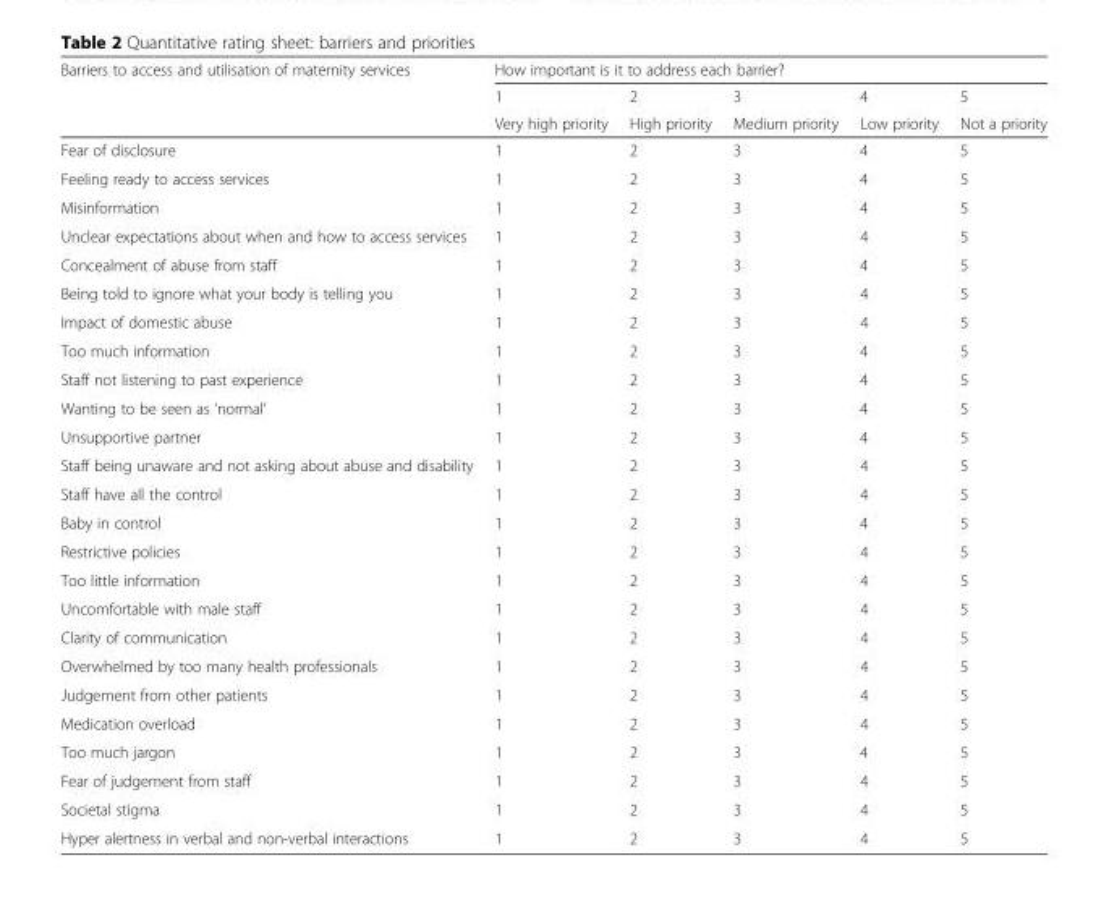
<table><thead><tr><td rowspan="3">Barriers to access and utilisation of maternity services</td><td colspan="5">How important is it to address each barrier?</td></tr><tr><td rowspan="2">1 Very high priority</td><td rowspan="2">2 High priority</td><td rowspan="2">3 Medium priority</td><td rowspan="2">4 Low priority</td><td rowspan="2">5 Not a priority</td></tr><tr></tr></thead><tbody><tr><td>Fear of disclosure</td><td>1</td><td>2</td><td>3</td><td>4</td><td>5</td></tr><tr><td>Feeling ready to access services</td><td>1</td><td>2</td><td>3</td><td>4</td><td>5</td></tr><tr><td>Misinformation</td><td>1</td><td>2</td><td>3</td><td>4</td><td>5</td></tr><tr><td>Unclear expectations about when and how to access services</td><td>1</td><td>2</td><td>3</td><td>4</td><td>5</td></tr><tr><td>Concealment of abuse from staff</td><td>1</td><td>2</td><td>3</td><td>4</td><td>5</td></tr><tr><td>Being told to ignore what your body is telling you</td><td>1</td><td>2</td><td>3</td><td>4</td><td>5</td></tr><tr><td>Impact of domestic abuse</td><td>1</td><td>2</td><td>3</td><td>4</td><td>5</td></tr><tr><td>Too much information</td><td>1</td><td>2</td><td>3</td><td>4</td><td>5</td></tr><tr><td>Staff not listening to past experience</td><td>1</td><td>2</td><td>3</td><td>4</td><td>5</td></tr><tr><td>Wanting to be seen as ‘normal’</td><td>1</td><td>2</td><td>3</td><td>4</td><td>5</td></tr><tr><td>Unsupportive partner</td><td>1</td><td>2</td><td>3</td><td>4</td><td>5</td></tr><tr><td>Staff being unaware and not asking about abuse and disability</td><td>1</td><td>2</td><td>3</td><td>4</td><td>5</td></tr><tr><td>Staff have all the control</td><td>1</td><td>2</td><td>3</td><td>4</td><td>5</td></tr><tr><td>Baby in control</td><td>1</td><td>2</td><td>3</td><td>4</td><td>5</td></tr><tr><td>Restrictive policies</td><td>1</td><td>2</td><td>3</td><td>4</td><td>5</td></tr><tr><td>Too little information</td><td>1</td><td>2</td><td>3</td><td>4</td><td>5</td></tr><tr><td>Uncomfortable with male staff</td><td>1</td><td>2</td><td>3</td><td>4</td><td>5</td></tr><tr><td>Clarity of communication</td><td>1</td><td>2</td><td>3</td><td>4</td><td>5</td></tr><tr><td>Overwhelmed by too many health professionals</td><td>1</td><td>2</td><td>3</td><td>4</td><td>5</td></tr><tr><td>Judgement from other patients</td><td>1</td><td>2</td><td>3</td><td>4</td><td>5</td></tr><tr><td>Medication overload</td><td>1</td><td>2</td><td>3</td><td>4</td><td>5</td></tr><tr><td>Too much jargon</td><td>1</td><td>2</td><td>3</td><td>4</td><td>5</td></tr><tr><td>Fear of judgement from staff</td><td>1</td><td>2</td><td>3</td><td>4</td><td>5</td></tr><tr><td>Societal stigma</td><td>1</td><td>2</td><td>3</td><td>4</td><td>5</td></tr><tr><td>Hyper alertness in verbal and non-verbal interactions</td><td>1</td><td>2</td><td>3</td><td>4</td><td>5</td></tr></tbody></table>